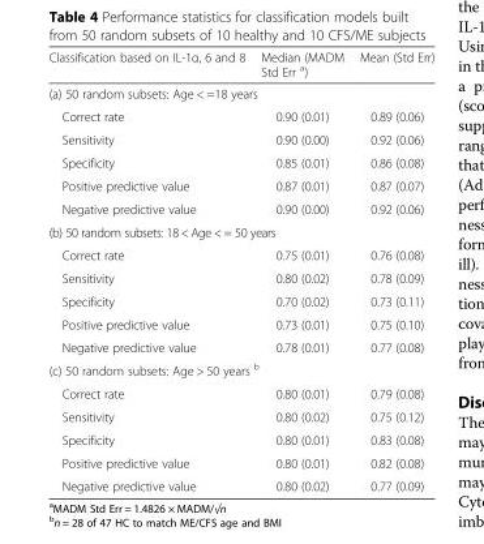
<table><thead><tr><td>Classification based on IL-1α, 6 and 8</td><td>Median (MADM Std Err <sup>a</sup>)</td><td>Mean (Std Err)</td></tr></thead><tbody><tr><td colspan="3">(a) 50 random subsets: Age &lt; =18 years</td></tr><tr><td>Correct rate</td><td>0.90 (0.01)</td><td>0.89 (0.06)</td></tr><tr><td>Sensitivity</td><td>0.90 (0.00)</td><td>0.92 (0.06)</td></tr><tr><td>Specificity</td><td>0.85 (0.01)</td><td>0.86 (0.08)</td></tr><tr><td>Positive predictive value</td><td>0.87 (0.01)</td><td>0.87 (0.07)</td></tr><tr><td>Negative predictive value</td><td>0.90 (0.00)</td><td>0.92 (0.06)</td></tr><tr><td colspan="3">(b) 50 random subsets: 18 &lt; Age &lt; = 50 years</td></tr><tr><td>Correct rate</td><td>0.75 (0.01)</td><td>0.76 (0.08)</td></tr><tr><td>Sensitivity</td><td>0.80 (0.02)</td><td>0.78 (0.09)</td></tr><tr><td>Specificity</td><td>0.70 (0.02)</td><td>0.73 (0.11)</td></tr><tr><td>Positive predictive value</td><td>0.73 (0.01)</td><td>0.75 (0.10)</td></tr><tr><td>Negative predictive value</td><td>0.78 (0.01)</td><td>0.77 (0.08)</td></tr><tr><td colspan="3">(c) 50 random subsets: Age &gt; 50 years <sup>b</sup></td></tr><tr><td>Correct rate</td><td>0.80 (0.01)</td><td>0.79 (0.08)</td></tr><tr><td>Sensitivity</td><td>0.80 (0.02)</td><td>0.75 (0.12)</td></tr><tr><td>Specificity</td><td>0.80 (0.01)</td><td>0.83 (0.08)</td></tr><tr><td>Positive predictive value</td><td>0.80 (0.01)</td><td>0.82 (0.08)</td></tr><tr><td>Negative predictive value</td><td>0.80 (0.02)</td><td>0.77 (0.09)</td></tr></tbody></table>